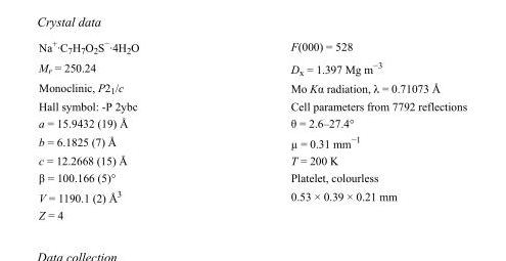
<table><tbody><tr><td>Na<sup>+</sup>·C<sub>7</sub>H<sub>7</sub>O<sub>2</sub>S<sup>−</sup>·4H<sub>2</sub>O</td><td>F(000) = 528</td></tr><tr><td>M<sub>r</sub> = 250.24</td><td>D<sub>x</sub> = 1.397 Mg m<sup>−3</sup></td></tr><tr><td>Monoclinic, P2<sub>1</sub>/c</td><td>Mo Kα radiation, λ = 0.71073 Å</td></tr><tr><td>Hall symbol: -P 2ybc</td><td>Cell parameters from 7792 reflections</td></tr><tr><td>a = 15.9432 (19) Å</td><td>θ = 2.6–27.4°</td></tr><tr><td>b = 6.1825 (7) Å</td><td>µ = 0.31 mm<sup>−1</sup></td></tr><tr><td>c = 12.2668 (15) Å</td><td>T = 200 K</td></tr><tr><td>β = 100.166 (5)°</td><td>Platelet, colourless</td></tr><tr><td>V = 1190.1 (2) Å<sup>3</sup></td><td>0.53 × 0.39 × 0.21 mm</td></tr><tr><td>Z = 4</td><td></td></tr></tbody></table>